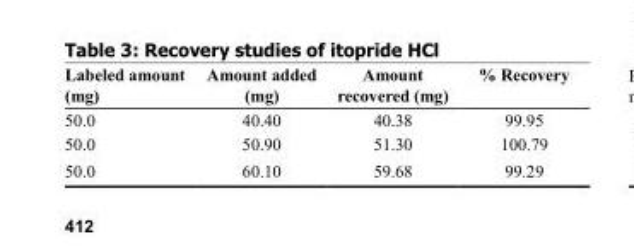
<table><thead><tr><td>Labeled amount (mg)</td><td>Amount added (mg)</td><td>Amount recovered (mg)</td><td>% Recovery</td></tr></thead><tbody><tr><td>50.0</td><td>40.40</td><td>40.38</td><td>99.95</td></tr><tr><td>50.0</td><td>50.90</td><td>51.30</td><td>100.79</td></tr><tr><td>50.0</td><td>60.10</td><td>59.68</td><td>99.29</td></tr></tbody></table>